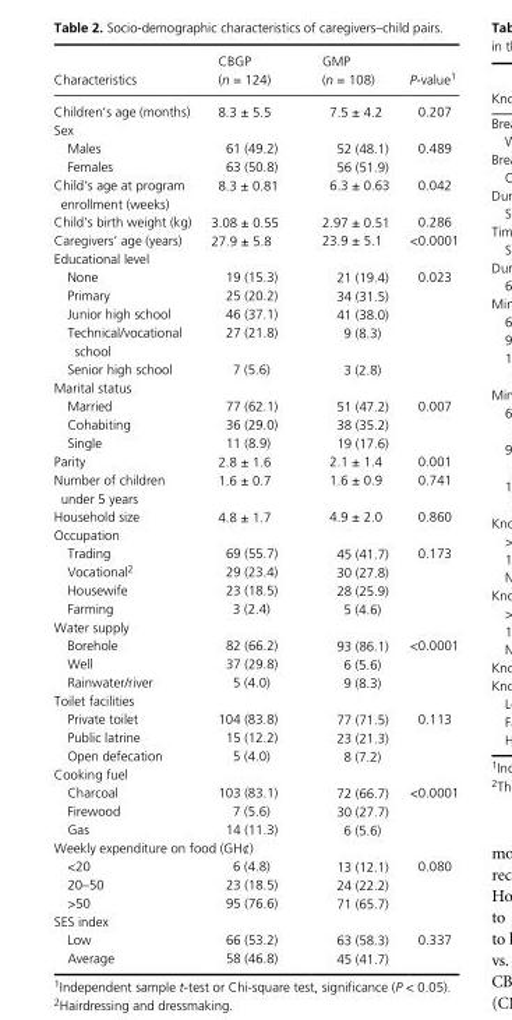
<table><thead><tr><td>Characteristics</td><td>CBGP (n = 124)</td><td>GMP (n = 108)</td><td>P- value1</td></tr></thead><tbody><tr><td>Children’s age (months)</td><td>8.3 ± 5.5</td><td>7.5 ± 4.2</td><td>0.207</td></tr><tr><td colspan="4">Sex</td></tr><tr><td>Males</td><td>61 (49.2)</td><td>52 (48.1)</td><td rowspan="2">0.489</td></tr><tr><td>Females</td><td>63 (50.8)</td><td>56 (51.9)</td></tr><tr><td>Child’s age at program enrollment (weeks)</td><td>8.3 ± 0.81</td><td>6.3 ± 0.63</td><td>0.042</td></tr><tr><td>Child’s birth weight (kg)</td><td>3.08 ± 0.55</td><td>2.97 ± 0.51</td><td>0.286</td></tr><tr><td>Caregivers’ age (years)</td><td>27.9 ± 5.8</td><td>23.9 ± 5.1</td><td>&lt;0.0001</td></tr><tr><td colspan="4">Educational level</td></tr><tr><td>None</td><td>19 (15.3)</td><td>21 (19.4)</td><td rowspan="5">0.023</td></tr><tr><td>Primary</td><td>25 (20.2)</td><td>34 (31.5)</td></tr><tr><td>Junior high school</td><td>46 (37.1)</td><td>41 (38.0)</td></tr><tr><td>Technical/vocational school</td><td>27 (21.8)</td><td>9 (8.3)</td></tr><tr><td>Senior high school</td><td>7 (5.6)</td><td>3 (2.8)</td></tr><tr><td colspan="4">Marital status</td></tr><tr><td>Married</td><td>77 (62.1)</td><td>51 (47.2)</td><td rowspan="3">0.007</td></tr><tr><td>Cohabiting</td><td>36 (29.0)</td><td>38 (35.2)</td></tr><tr><td>Single</td><td>11 (8.9)</td><td>19 (17.6)</td></tr><tr><td>Parity</td><td>2.8 ± 1.6</td><td>2.1 ± 1.4</td><td>0.001</td></tr><tr><td>Number of children under 5 years</td><td>1.6 ± 0.7</td><td>1.6 ± 0.9</td><td>0.741</td></tr><tr><td>Household size</td><td>4.8 ± 1.7</td><td>4.9 ± 2.0</td><td>0.860</td></tr><tr><td colspan="4">Occupation</td></tr><tr><td>Trading</td><td>69 (55.7)</td><td>45 (41.7)</td><td rowspan="4">0.173</td></tr><tr><td>Vocational2</td><td>29 (23.4)</td><td>30 (27.8)</td></tr><tr><td>Housewife</td><td>23 (18.5)</td><td>28 (25.9)</td></tr><tr><td>Farming</td><td>3 (2.4)</td><td>5 (4.6)</td></tr><tr><td colspan="4">Water supply</td></tr><tr><td>Borehole</td><td>82 (66.2)</td><td>93 (86.1)</td><td rowspan="3">&lt;0.0001</td></tr><tr><td>Well</td><td>37 (29.8)</td><td>6 (5.6)</td></tr><tr><td>Rainwater/river</td><td>5 (4.0)</td><td>9 (8.3)</td></tr><tr><td colspan="4">Toilet facilities</td></tr><tr><td>Private toilet</td><td>104 (83.8)</td><td>77 (71.5)</td><td rowspan="3">0.113</td></tr><tr><td>Public latrine</td><td>15 (12.2)</td><td>23 (21.3)</td></tr><tr><td>Open defecation</td><td>5 (4.0)</td><td>8 (7.2)</td></tr><tr><td colspan="4">Cooking fuel</td></tr><tr><td>Charcoal</td><td>103 (83.1)</td><td>72 (66.7)</td><td rowspan="3">&lt;0.0001</td></tr><tr><td>Firewood</td><td>7 (5.6)</td><td>30 (27.7)</td></tr><tr><td>Gas</td><td>14 (11.3)</td><td>6 (5.6)</td></tr><tr><td colspan="4">Weekly expenditure on food (GH¢)</td></tr><tr><td>&lt;20</td><td>6 (4.8)</td><td>13 (12.1)</td><td rowspan="3">0.080</td></tr><tr><td>20–50</td><td>23 (18.5)</td><td>24 (22.2)</td></tr><tr><td>&gt;50</td><td>95 (76.6)</td><td>71 (65.7)</td></tr><tr><td colspan="4">SES index</td></tr><tr><td>Low</td><td>66 (53.2)</td><td>63 (58.3)</td><td rowspan="2">0.337</td></tr><tr><td>Average</td><td>58 (46.8)</td><td>45 (41.7)</td></tr></tbody></table>